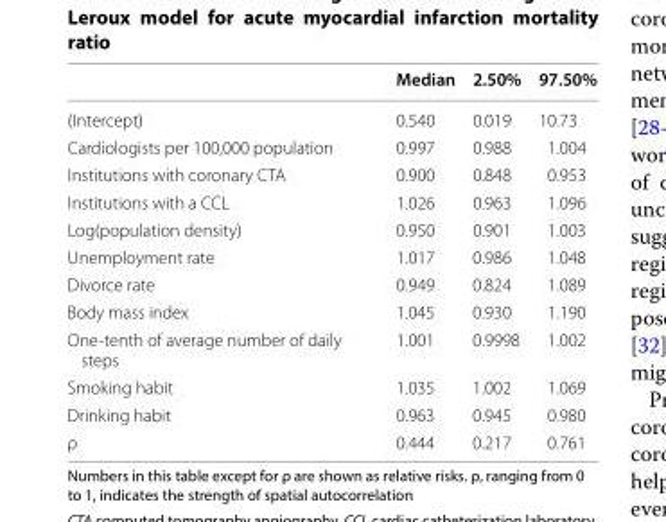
<table><thead><tr><td></td><td>Median</td><td>2.50%</td><td>97.50%</td></tr></thead><tbody><tr><td>(Intercept)</td><td>0.540</td><td>0.019</td><td>10.73</td></tr><tr><td>Cardiologists per 100,000 population</td><td>0.997</td><td>0.988</td><td>1.004</td></tr><tr><td>Institutions with coronary CTA</td><td>0.900</td><td>0.848</td><td>0.953</td></tr><tr><td>Institutions with a CCL</td><td>1.026</td><td>0.963</td><td>1.096</td></tr><tr><td>Log(population density)</td><td>0.950</td><td>0.901</td><td>1.003</td></tr><tr><td>Unemployment rate</td><td>1.017</td><td>0.986</td><td>1.048</td></tr><tr><td>Divorce rate</td><td>0.949</td><td>0.824</td><td>1.089</td></tr><tr><td>Body mass index</td><td>1.045</td><td>0.930</td><td>1.190</td></tr><tr><td>One-tenth of average number of daily steps</td><td>1.001</td><td>0.9998</td><td>1.002</td></tr><tr><td>Smoking habit</td><td>1.035</td><td>1.002</td><td>1.069</td></tr><tr><td>Drinking habit</td><td>0.963</td><td>0.945</td><td>0.980</td></tr><tr><td>ρ</td><td>0.444</td><td>0.217</td><td>0.761</td></tr></tbody></table>